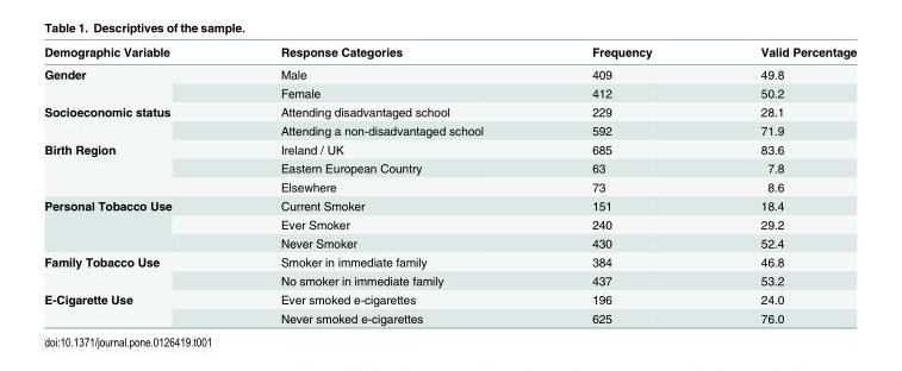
<table><thead><tr><td>Demographic Variable</td><td>Response Categories</td><td>Frequency</td><td>Valid Percentage</td></tr></thead><tbody><tr><td rowspan="2">Gender</td><td>Male</td><td>409</td><td>49.8</td></tr><tr><td>Female</td><td>412</td><td>50.2</td></tr><tr><td rowspan="2">Socioeconomic status</td><td>Attending disadvantaged school</td><td>229</td><td>28.1</td></tr><tr><td>Attending a non-disadvantaged school</td><td>592</td><td>71.9</td></tr><tr><td rowspan="3">Birth Region</td><td>Ireland / UK</td><td>685</td><td>83.6</td></tr><tr><td>Eastern European Country</td><td>63</td><td>7.8</td></tr><tr><td>Elsewhere</td><td>73</td><td>8.6</td></tr><tr><td rowspan="3">Personal Tobacco Use</td><td>Current Smoker</td><td>151</td><td>18.4</td></tr><tr><td>Ever Smoker</td><td>240</td><td>29.2</td></tr><tr><td>Never Smoker</td><td>430</td><td>52.4</td></tr><tr><td rowspan="2">Family Tobacco Use</td><td>Smoker in immediate family</td><td>384</td><td>46.8</td></tr><tr><td>No smoker in immediate family</td><td>437</td><td>53.2</td></tr><tr><td rowspan="2">E-Cigarette Use</td><td>Ever smoked e-cigarettes</td><td>196</td><td>24.0</td></tr><tr><td>Never smoked e-cigarettes</td><td>625</td><td>76.0</td></tr></tbody></table>